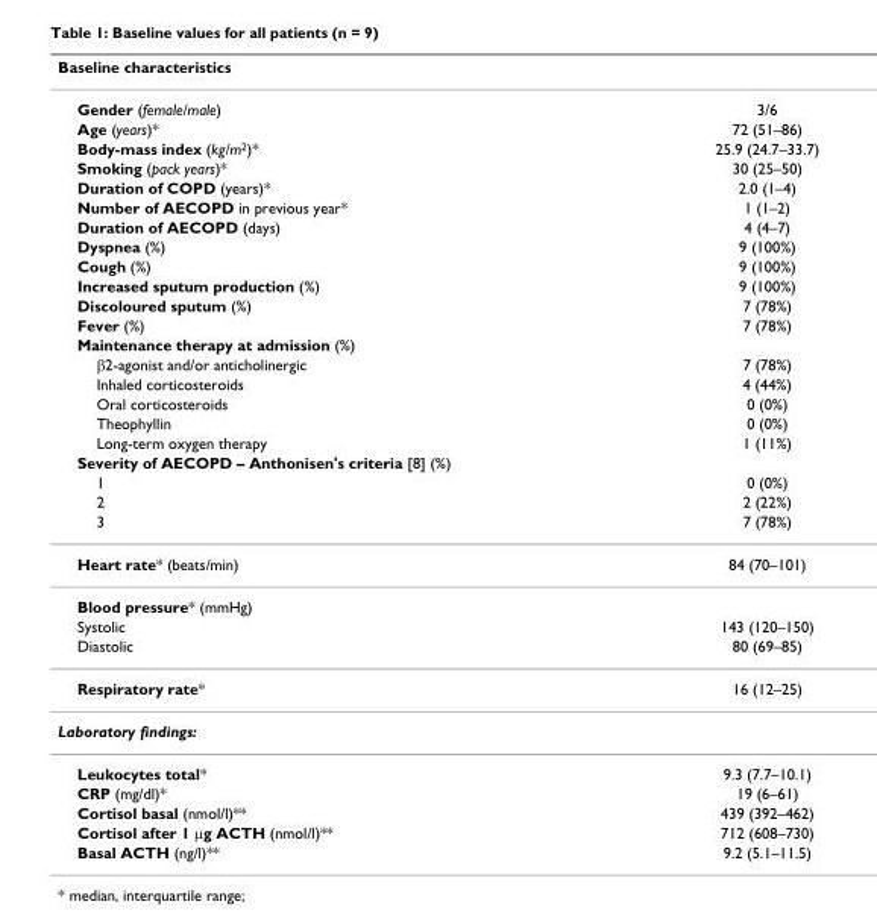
<table><thead><tr><td>Baseline characteristics</td><td></td></tr></thead><tbody><tr><td>Gender (female/male)</td><td>3/6</td></tr><tr><td>Age (years)*</td><td>72 (51–86)</td></tr><tr><td>Body-mass index (kg/m<sup>2</sup>)*</td><td>25.9 (24.7–33.7)</td></tr><tr><td>Smoking (pack years)*</td><td>30 (25–50)</td></tr><tr><td>Duration of COPD (years)*</td><td>2.0 (1–4)</td></tr><tr><td>Number of AECOPD in previous year*</td><td>1 (1–2)</td></tr><tr><td>Duration of AECOPD (days)</td><td>4 (4–7)</td></tr><tr><td>Dyspnea (%)</td><td>9 (100%)</td></tr><tr><td>Cough (%)</td><td>9 (100%)</td></tr><tr><td>Increased sputum production (%)</td><td>9 (100%)</td></tr><tr><td>Discoloured sputum (%)</td><td>7 (78%)</td></tr><tr><td>Fever (%)</td><td>7 (78%)</td></tr><tr><td colspan="2">Maintenance therapy at admission (%)</td></tr><tr><td>β2-agonist and/or anticholinergic</td><td>7 (78%)</td></tr><tr><td>Inhaled corticosteroids</td><td>4 (44%)</td></tr><tr><td>Oral corticosteroids</td><td>0 (0%)</td></tr><tr><td>Theophyllin</td><td>0 (0%)</td></tr><tr><td>Long-term oxygen therapy</td><td>1 (11%)</td></tr><tr><td colspan="2">Severity of AECOPD – Anthonisen&#x27;s criteria [8] (%)</td></tr><tr><td>1</td><td>0 (0%)</td></tr><tr><td>2</td><td>2 (22%)</td></tr><tr><td>3</td><td>7 (78%)</td></tr><tr><td>Heart rate* (beats/min)</td><td>84 (70–101)</td></tr><tr><td colspan="2">Blood pressure* (mmHg)</td></tr><tr><td>Systolic</td><td>143 (120–150)</td></tr><tr><td>Diastolic</td><td>80 (69–85)</td></tr><tr><td>Respiratory rate*</td><td>16 (12–25)</td></tr><tr><td colspan="2">Laboratory findings:</td></tr><tr><td>Leukocytes total*</td><td>9.3 (7.7–10.1)</td></tr><tr><td>CRP (mg/dl)*</td><td>19 (6–61)</td></tr><tr><td>Cortisol basal (nmol/l)**</td><td>439 (392–462)</td></tr><tr><td>Cortisol after 1 µg ACTH (nmol/l)**</td><td>712 (608–730)</td></tr><tr><td>Basal ACTH (ng/l)**</td><td>9.2 (5.1–11.5)</td></tr></tbody></table>